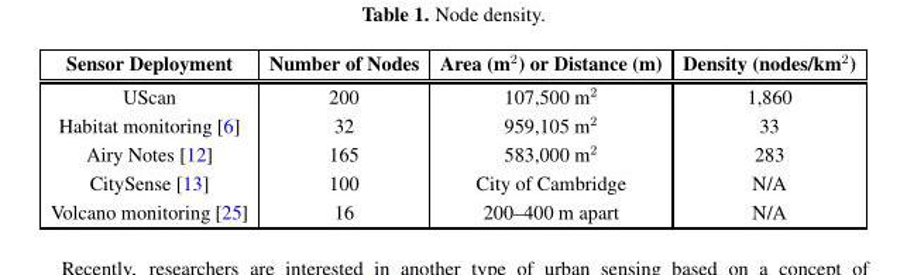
<table><thead><tr><td>Sensor Deployment</td><td>Number of Nodes</td><td>Area (m<sup>2</sup>) or Distance (m)</td><td>Density (nodes/km<sup>2</sup>)</td></tr></thead><tbody><tr><td>UScan</td><td>200</td><td>107,500 m<sup>2</sup></td><td>1,860</td></tr><tr><td>Habitat monitoring [6]</td><td>32</td><td>959,105 m<sup>2</sup></td><td>33</td></tr><tr><td>Airy Notes [12]</td><td>165</td><td>583,000 m<sup>2</sup></td><td>283</td></tr><tr><td>CitySense [13]</td><td>100</td><td>City of Cambridge</td><td>N/A</td></tr><tr><td>Volcano monitoring [25]</td><td>16</td><td>200–400 m apart</td><td>N/A</td></tr></tbody></table>